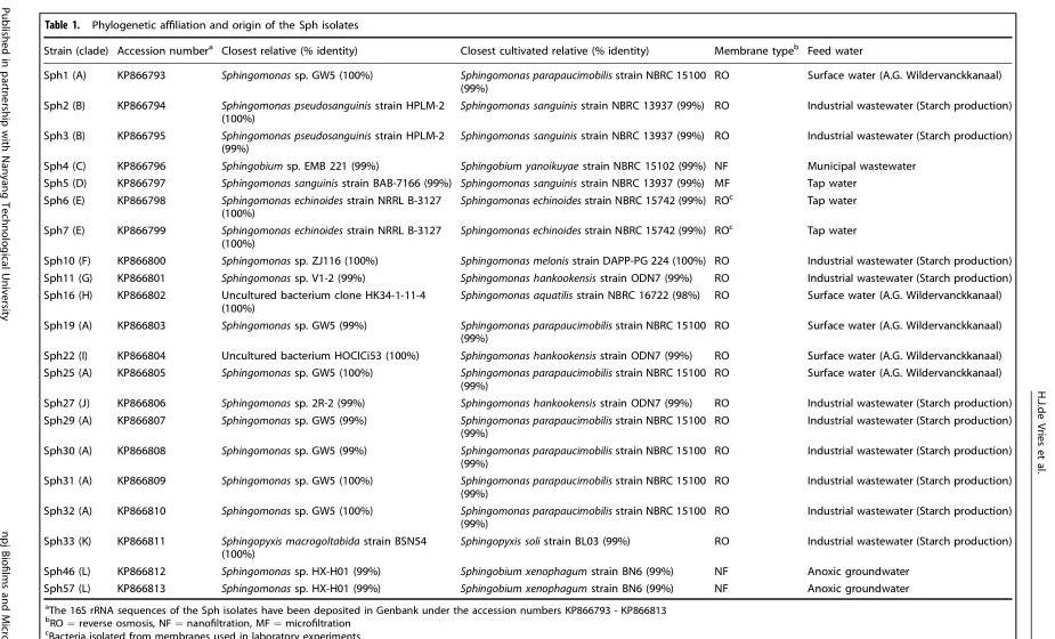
<table><thead><tr><td>Strain (clade)</td><td>Accession number<sup>a</sup></td><td>Closest relative (% identity)</td><td>Closest cultivated relative (% identity)</td><td>Membrane type<sup>b</sup></td><td>Feed water</td></tr></thead><tbody><tr><td>Sph1 (A)</td><td>KP866793</td><td>Sphingomonas sp. GW5 (100%)</td><td>Sphingomonas parapaucimobilis strain NBRC 15100 (99%)</td><td>RO</td><td>Surface water (A.G. Wildervanckkanaal)</td></tr><tr><td>Sph2 (B)</td><td>KP866794</td><td>Sphingomonas pseudosanguinis strain HPLM-2 (100%)</td><td>Sphingomonas sanguinis strain NBRC 13937 (99%)</td><td>RO</td><td>Industrial wastewater (Starch production)</td></tr><tr><td>Sph3 (B)</td><td>KP866795</td><td>Sphingomonas pseudosanguinis strain HPLM-2 (99%)</td><td>Sphingomonas sanguinis strain NBRC 13937 (99%)</td><td>RO</td><td>Industrial wastewater (Starch production)</td></tr><tr><td>Sph4 (C)</td><td>KP866796</td><td>Sphingobium sp. EMB 221 (99%)</td><td>Sphingobium yanoikuyae strain NBRC 15102 (99%)</td><td>NF</td><td>Municipal wastewater</td></tr><tr><td>Sph5 (D)</td><td>KP866797</td><td>Sphingomonas sanguinis strain BAB-7166 (99%)</td><td>Sphingomonas sanguinis strain NBRC 13937 (99%)</td><td>MF</td><td>Tap water</td></tr><tr><td>Sph6 (E)</td><td>KP866798</td><td>Sphingomonas echinoides strain NRRL B-3127 (100%)</td><td>Sphingomonas echinoides strain NBRC 15742 (99%)</td><td>RO<sup>c</sup></td><td>Tap water</td></tr><tr><td>Sph7 (E)</td><td>KP866799</td><td>Sphingomonas echinoides strain NRRL B-3127 (100%)</td><td>Sphingomonas echinoides strain NBRC 15742 (99%)</td><td>RO<sup>c</sup></td><td>Tap water</td></tr><tr><td>Sph10 (F)</td><td>KP866800</td><td>Sphingomonas sp. ZJ116 (100%)</td><td>Sphingomonas melonis strain DAPP-PG 224 (100%)</td><td>RO</td><td>Industrial wastewater (Starch production)</td></tr><tr><td>Sph11 (G)</td><td>KP866801</td><td>Sphingomonas sp. V1-2 (99%)</td><td>Sphingomonas hankookensis strain ODN7 (99%)</td><td>RO</td><td>Industrial wastewater (Starch production)</td></tr><tr><td>Sph16 (H)</td><td>KP866802</td><td>Uncultured bacterium clone HK34-1-11-4 (100%)</td><td>Sphingomonas aquatilis strain NBRC 16722 (98%)</td><td>RO</td><td>Surface water (A.G. Wildervanckkanaal)</td></tr><tr><td>Sph19 (A)</td><td>KP866803</td><td>Sphingomonas sp. GW5 (99%)</td><td>Sphingomonas parapaucimobilis strain NBRC 15100 (99%)</td><td>RO</td><td>Surface water (A.G. Wildervanckkanaal)</td></tr><tr><td>Sph22 (I)</td><td>KP866804</td><td>Uncultured bacterium HOClCi53 (100%)</td><td>Sphingomonas hankookensis strain ODN7 (99%)</td><td>RO</td><td>Surface water (A.G. Wildervanckkanaal)</td></tr><tr><td>Sph25 (A)</td><td>KP866805</td><td>Sphingomonas sp. GW5 (100%)</td><td>Sphingomonas parapaucimobilis strain NBRC 15100 (99%)</td><td>RO</td><td>Surface water (A.G. Wildervanckkanaal)</td></tr><tr><td>Sph27 (J)</td><td>KP866806</td><td>Sphingomonas sp. 2R-2 (99%)</td><td>Sphingomonas hankookensis strain ODN7 (99%)</td><td>RO</td><td>Industrial wastewater (Starch production)</td></tr><tr><td>Sph29 (A)</td><td>KP866807</td><td>Sphingomonas sp. GW5 (99%)</td><td>Sphingomonas parapaucimobilis strain NBRC 15100 (99%)</td><td>RO</td><td>Industrial wastewater (Starch production)</td></tr><tr><td>Sph30 (A)</td><td>KP866808</td><td>Sphingomonas sp. GW5 (99%)</td><td>Sphingomonas parapaucimobilis strain NBRC 15100 (99%)</td><td>RO</td><td>Industrial wastewater (Starch production)</td></tr><tr><td>Sph31 (A)</td><td>KP866809</td><td>Sphingomonas sp. GW5 (100%)</td><td>Sphingomonas parapaucimobilis strain NBRC 15100 (99%)</td><td>RO</td><td>Industrial wastewater (Starch production)</td></tr><tr><td>Sph32 (A)</td><td>KP866810</td><td>Sphingomonas sp. GW5 (100%)</td><td>Sphingomonas parapaucimobilis strain NBRC 15100 (99%)</td><td>RO</td><td>Industrial wastewater (Starch production)</td></tr><tr><td>Sph33 (K)</td><td>KP866811</td><td>Sphingopyxis macrogoltabida strain BSN54 (100%)</td><td>Sphingopyxis soli strain BL03 (99%)</td><td>RO</td><td>Industrial wastewater (Starch production)</td></tr><tr><td>Sph46 (L)</td><td>KP866812</td><td>Sphingomonas sp. HX-H01 (99%)</td><td>Sphingobium xenophagum strain BN6 (99%)</td><td>NF</td><td>Anoxic groundwater</td></tr><tr><td>Sph57 (L)</td><td>KP866813</td><td>Sphingomonas sp. HX-H01 (99%)</td><td>Sphingobium xenophagum strain BN6 (99%)</td><td>NF</td><td>Anoxic groundwater</td></tr></tbody></table>